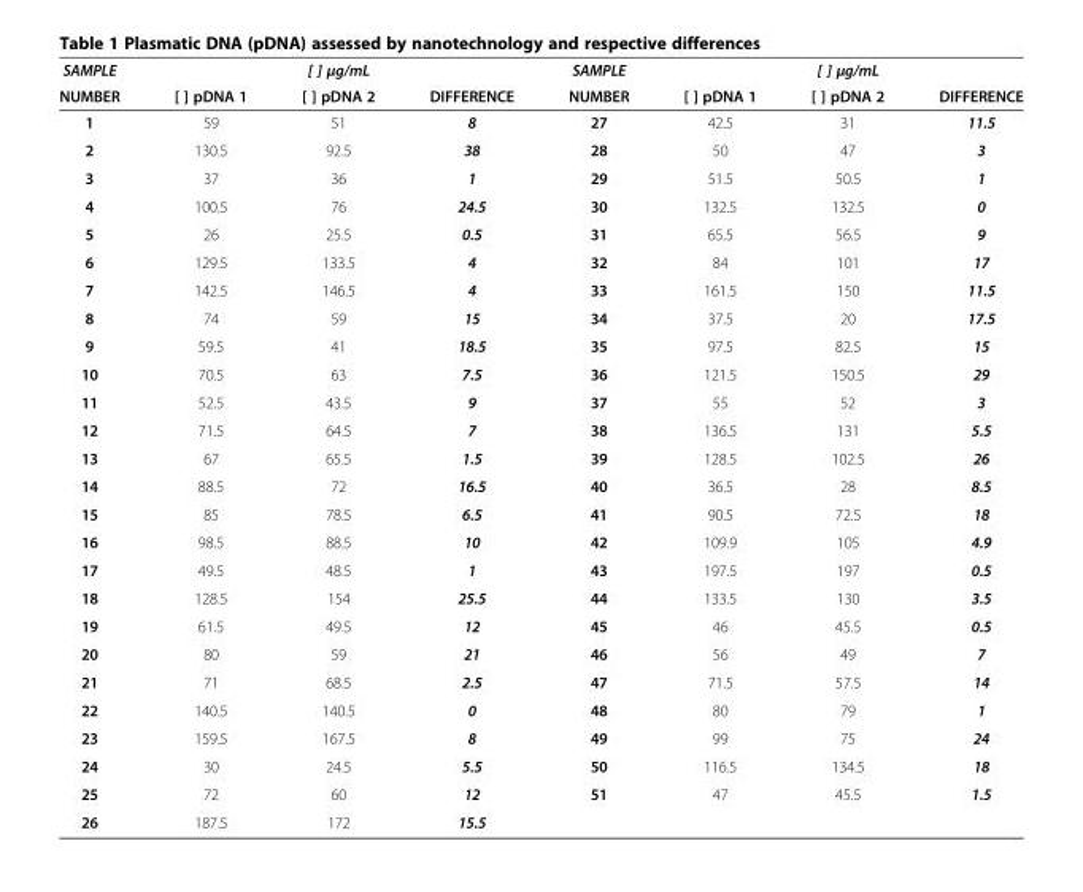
<table><thead><tr><td rowspan="2">SAMPLE NUMBER</td><td rowspan="2">[ ] pDNA 1</td><td rowspan="2">[ ] μg/mL [ ] pDNA 2</td><td rowspan="2">DIFFERENCE</td><td rowspan="2">SAMPLE NUMBER</td><td rowspan="2">[ ] pDNA 1</td><td rowspan="2">[ ] μg/mL [ ] pDNA 2</td><td rowspan="2">DIFFERENCE</td></tr><tr></tr></thead><tbody><tr><td>1</td><td>59</td><td>51</td><td>8</td><td>27</td><td>42.5</td><td>31</td><td>11.5</td></tr><tr><td>2</td><td>130.5</td><td>92.5</td><td>38</td><td>28</td><td>50</td><td>47</td><td>3</td></tr><tr><td>3</td><td>37</td><td>36</td><td>1</td><td>29</td><td>51.5</td><td>50.5</td><td>1</td></tr><tr><td>4</td><td>100.5</td><td>76</td><td>24.5</td><td>30</td><td>132.5</td><td>132.5</td><td>0</td></tr><tr><td>5</td><td>26</td><td>25.5</td><td>0.5</td><td>31</td><td>65.5</td><td>56.5</td><td>9</td></tr><tr><td>6</td><td>129.5</td><td>133.5</td><td>4</td><td>32</td><td>84</td><td>101</td><td>17</td></tr><tr><td>7</td><td>142.5</td><td>146.5</td><td>4</td><td>33</td><td>161.5</td><td>150</td><td>11.5</td></tr><tr><td>8</td><td>74</td><td>59</td><td>15</td><td>34</td><td>37.5</td><td>20</td><td>17.5</td></tr><tr><td>9</td><td>59.5</td><td>41</td><td>18.5</td><td>35</td><td>97.5</td><td>82.5</td><td>15</td></tr><tr><td>10</td><td>70.5</td><td>63</td><td>7.5</td><td>36</td><td>121.5</td><td>150.5</td><td>29</td></tr><tr><td>11</td><td>52.5</td><td>43.5</td><td>9</td><td>37</td><td>55</td><td>52</td><td>3</td></tr><tr><td>12</td><td>71.5</td><td>64.5</td><td>7</td><td>38</td><td>136.5</td><td>131</td><td>5.5</td></tr><tr><td>13</td><td>67</td><td>65.5</td><td>1.5</td><td>39</td><td>128.5</td><td>102.5</td><td>26</td></tr><tr><td>14</td><td>88.5</td><td>72</td><td>16.5</td><td>40</td><td>36.5</td><td>28</td><td>8.5</td></tr><tr><td>15</td><td>85</td><td>78.5</td><td>6.5</td><td>41</td><td>90.5</td><td>72.5</td><td>18</td></tr><tr><td>16</td><td>98.5</td><td>88.5</td><td>10</td><td>42</td><td>109.9</td><td>105</td><td>4.9</td></tr><tr><td>17</td><td>49.5</td><td>48.5</td><td>1</td><td>43</td><td>197.5</td><td>197</td><td>0.5</td></tr><tr><td>18</td><td>128.5</td><td>154</td><td>25.5</td><td>44</td><td>133.5</td><td>130</td><td>3.5</td></tr><tr><td>19</td><td>61.5</td><td>49.5</td><td>12</td><td>45</td><td>46</td><td>45.5</td><td>0.5</td></tr><tr><td>20</td><td>80</td><td>59</td><td>21</td><td>46</td><td>56</td><td>49</td><td>7</td></tr><tr><td>21</td><td>71</td><td>68.5</td><td>2.5</td><td>47</td><td>71.5</td><td>57.5</td><td>14</td></tr><tr><td>22</td><td>140.5</td><td>140.5</td><td>0</td><td>48</td><td>80</td><td>79</td><td>1</td></tr><tr><td>23</td><td>159.5</td><td>167.5</td><td>8</td><td>49</td><td>99</td><td>75</td><td>24</td></tr><tr><td>24</td><td>30</td><td>24.5</td><td>5.5</td><td>50</td><td>116.5</td><td>134.5</td><td>18</td></tr><tr><td>25</td><td>72</td><td>60</td><td>12</td><td>51</td><td>47</td><td>45.5</td><td>1.5</td></tr><tr><td>26</td><td>187.5</td><td>172</td><td>15.5</td><td></td><td></td><td></td><td></td></tr></tbody></table>